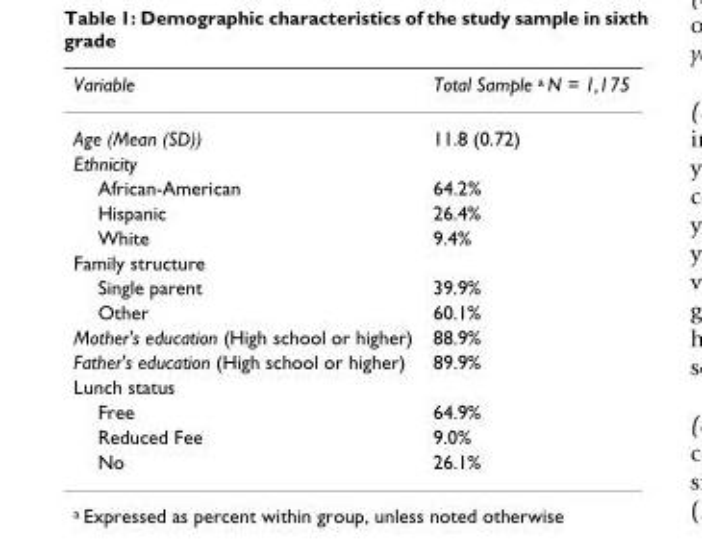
<table><thead><tr><td>Variable</td><td>Total Sample <sup>a</sup> N = 1,175</td></tr></thead><tbody><tr><td>Age (Mean (SD))</td><td>11.8 (0.72)</td></tr><tr><td colspan="2">Ethnicity</td></tr><tr><td>African-American</td><td>64.2%</td></tr><tr><td>Hispanic</td><td>26.4%</td></tr><tr><td>White</td><td>9.4%</td></tr><tr><td colspan="2">Family structure</td></tr><tr><td>Single parent</td><td>39.9%</td></tr><tr><td>Other</td><td>60.1%</td></tr><tr><td>Mother&#x27;s education (High school or higher)</td><td>88.9%</td></tr><tr><td>Father&#x27;s education (High school or higher)</td><td>89.9%</td></tr><tr><td colspan="2">Lunch status</td></tr><tr><td>Free</td><td>64.9%</td></tr><tr><td>Reduced Fee</td><td>9.0%</td></tr><tr><td>No</td><td>26.1%</td></tr></tbody></table>